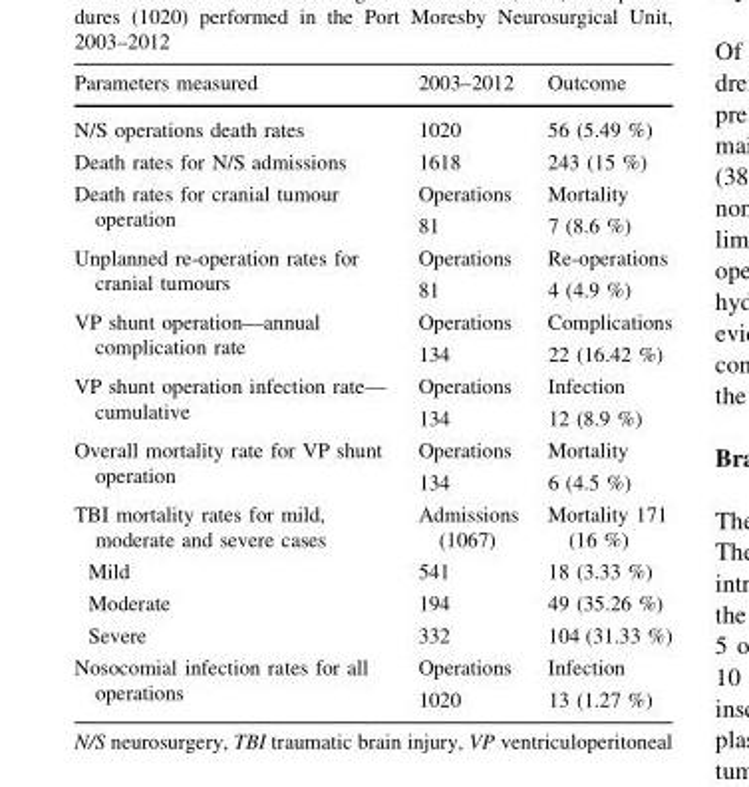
<table><thead><tr><td>Parameters measured</td><td>2003–2012</td><td>Outcome</td></tr></thead><tbody><tr><td>N/S operations death rates</td><td>1020</td><td>56 (5.49 %)</td></tr><tr><td>Death rates for N/S admissions</td><td>1618</td><td>243 (15 %)</td></tr><tr><td>Death rates for cranial tumour operation</td><td>Operations 81</td><td>Mortality 7 (8.6 %)</td></tr><tr><td>Unplanned re-operation rates for cranial tumours</td><td>Operations 81</td><td>Re-operations 4 (4.9 %)</td></tr><tr><td>VP shunt operation—annual complication rate</td><td>Operations 134</td><td>Complications 22 (16.42 %)</td></tr><tr><td>VP shunt operation infection rate— cumulative</td><td>Operations 134</td><td>Infection 12 (8.9 %)</td></tr><tr><td>Overall mortality rate for VP shunt operation</td><td>Operations 134</td><td>Mortality 6 (4.5 %)</td></tr><tr><td>TBI mortality rates for mild, moderate and severe cases</td><td>Admissions (1067)</td><td>Mortality 171 (16 %)</td></tr><tr><td>Mild</td><td>541</td><td>18 (3.33 %)</td></tr><tr><td>Moderate</td><td>194</td><td>49 (35.26 %)</td></tr><tr><td>Severe</td><td>332</td><td>104 (31.33 %)</td></tr><tr><td>Nosocomial infection rates for all operations</td><td>Operations 1020</td><td>Infection 13 (1.27 %)</td></tr></tbody></table>